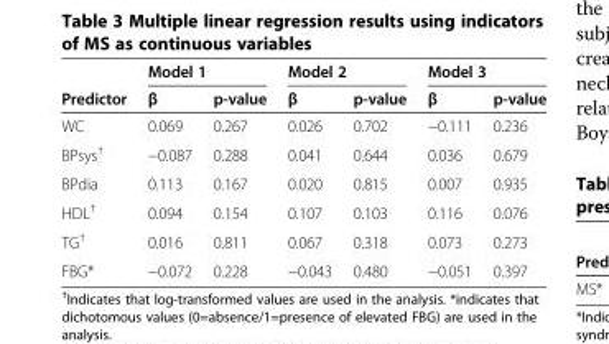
<table><thead><tr><td rowspan="2">Predictor</td><td colspan="2">Model 1</td><td colspan="2">Model 2</td><td colspan="2">Model 3</td></tr><tr><td>β</td><td>p-value</td><td>β</td><td>p-value</td><td>β</td><td>p-value</td></tr></thead><tbody><tr><td>WC</td><td>0.069</td><td>0.267</td><td>0.026</td><td>0.702</td><td>−0.111</td><td>0.236</td></tr><tr><td>BPsys<sup>†</sup></td><td>−0.087</td><td>0.288</td><td>0.041</td><td>0.644</td><td>0.036</td><td>0.679</td></tr><tr><td>BPdia</td><td>0.113</td><td>0.167</td><td>0.020</td><td>0.815</td><td>0.007</td><td>0.935</td></tr><tr><td>HDL<sup>†</sup></td><td>0.094</td><td>0.154</td><td>0.107</td><td>0.103</td><td>0.116</td><td>0.076</td></tr><tr><td>TG<sup>†</sup></td><td>0.016</td><td>0.811</td><td>0.067</td><td>0.318</td><td>0.073</td><td>0.273</td></tr><tr><td>FBG*</td><td>−0.072</td><td>0.228</td><td>−0.043</td><td>0.480</td><td>−0.051</td><td>0.397</td></tr></tbody></table>